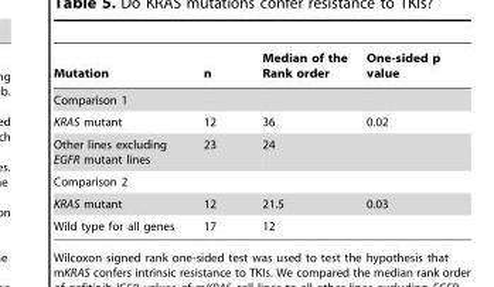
<table><thead><tr><td>Mutation</td><td>n</td><td>Median of the Rank order</td><td>One-sided p value</td></tr></thead><tbody><tr><td colspan="4">Comparison 1</td></tr><tr><td>KRAS mutant</td><td>12</td><td>36</td><td>0.02</td></tr><tr><td>Other lines excluding EGFR mutant lines</td><td>23</td><td>24</td><td></td></tr><tr><td colspan="4">Comparison 2</td></tr><tr><td>KRAS mutant</td><td>12</td><td>21.5</td><td>0.03</td></tr><tr><td>Wild type for all genes</td><td>17</td><td>12</td><td></td></tr></tbody></table>